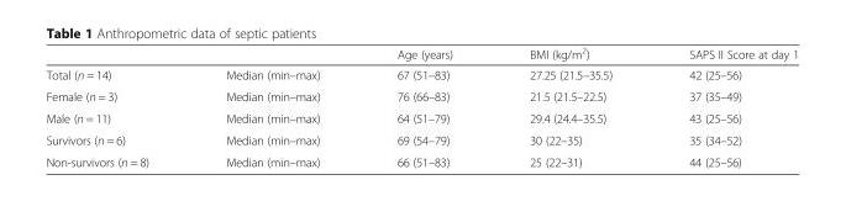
<table><thead><tr><td></td><td></td><td>Age (years)</td><td>BMI (kg/m<sup>2</sup>)</td><td>SAPS II Score at day 1</td></tr></thead><tbody><tr><td>Total (n = 14)</td><td>Median (min–max)</td><td>67 (51–83)</td><td>27.25 (21.5–35.5)</td><td>42 (25–56)</td></tr><tr><td>Female (n = 3)</td><td>Median (min–max)</td><td>76 (66–83)</td><td>21.5 (21.5–22.5)</td><td>37 (35–49)</td></tr><tr><td>Male (n = 11)</td><td>Median (min–max)</td><td>64 (51–79)</td><td>29.4 (24.4–35.5)</td><td>43 (25–56)</td></tr><tr><td>Survivors (n = 6)</td><td>Median (min–max)</td><td>69 (54–79)</td><td>30 (22–35)</td><td>35 (34–52)</td></tr><tr><td>Non-survivors (n = 8)</td><td>Median (min–max)</td><td>66 (51–83)</td><td>25 (22–31)</td><td>44 (25–56)</td></tr></tbody></table>